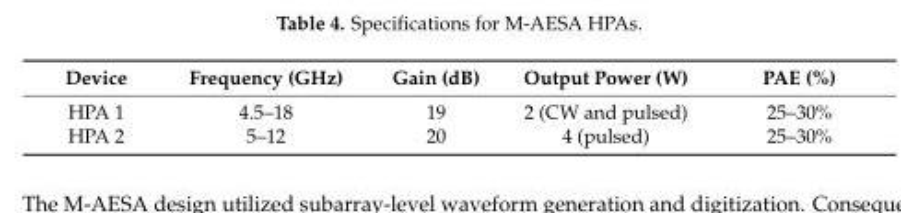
<table><thead><tr><td>Device</td><td>Frequency (GHz)</td><td>Gain (dB)</td><td>Output Power (W)</td><td>PAE (%)</td></tr></thead><tbody><tr><td>HPA 1</td><td>4.5–18</td><td>19</td><td>2 (CW and pulsed)</td><td>25–30%</td></tr><tr><td>HPA 2</td><td>5–12</td><td>20</td><td>4 (pulsed)</td><td>25–30%</td></tr></tbody></table>